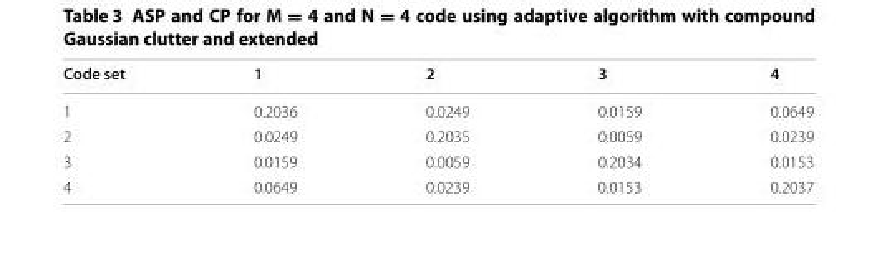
<table><thead><tr><td>Code set</td><td>1</td><td>2</td><td>3</td><td>4</td></tr></thead><tbody><tr><td>1</td><td>0.2036</td><td>0.0249</td><td>0.0159</td><td>0.0649</td></tr><tr><td>2</td><td>0.0249</td><td>0.2035</td><td>0.0059</td><td>0.0239</td></tr><tr><td>3</td><td>0.0159</td><td>0.0059</td><td>0.2034</td><td>0.0153</td></tr><tr><td>4</td><td>0.0649</td><td>0.0239</td><td>0.0153</td><td>0.2037</td></tr></tbody></table>